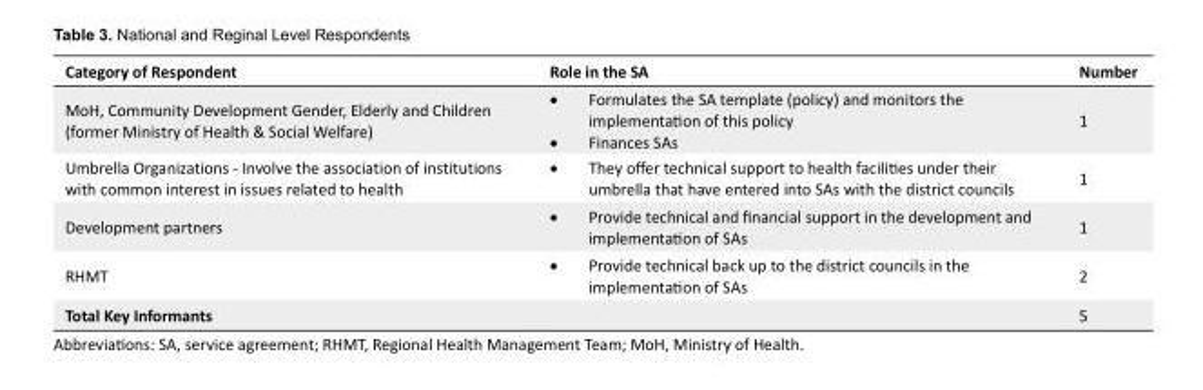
<table><tbody><tr><td>Category of Respondent</td><td>Role in the SA</td><td>Number</td></tr><tr><td>MoH, Community Development Gender, Elderly and Children (former Ministry of Health &amp; Social Welfare)</td><td>• Formulates the SA template (policy) and monitors the implementation of this policy • Finances SAs</td><td>1</td></tr><tr><td>Umbrella Organizations - Involve the association of institutions with common interest in issues related to health</td><td>• They offer technical support to health facilities under their umbrella that have entered into SAs with the district councils</td><td>1</td></tr><tr><td>Development partners</td><td>• Provide technical and financial support in the development and implementation of SAs</td><td>1</td></tr><tr><td>RHMT</td><td>• Provide technical back up to the district councils in the implementation of SAs</td><td>2</td></tr><tr><td>Total Key Informants</td><td></td><td>5</td></tr></tbody></table>